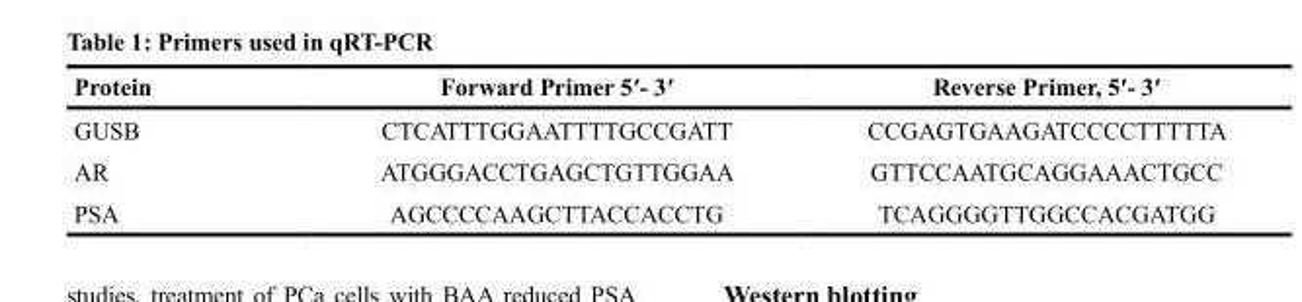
<table><thead><tr><td>Protein</td><td>Forward Primer 5′- 3′</td><td>Reverse Primer, 5′- 3′</td></tr></thead><tbody><tr><td>GUSB</td><td>CTCATTTGGAATTTTGCCGATT</td><td>CCGAGTGAAGATCCCCTTTTTA</td></tr><tr><td>AR</td><td>ATGGGACCTGAGCTGTTGGAA</td><td>GTTCCAATGCAGGAAACTGCC</td></tr><tr><td>PSA</td><td>AGCCCCAAGCTTACCACCTG</td><td>TCAGGGGTTGGCCACGATGG</td></tr></tbody></table>